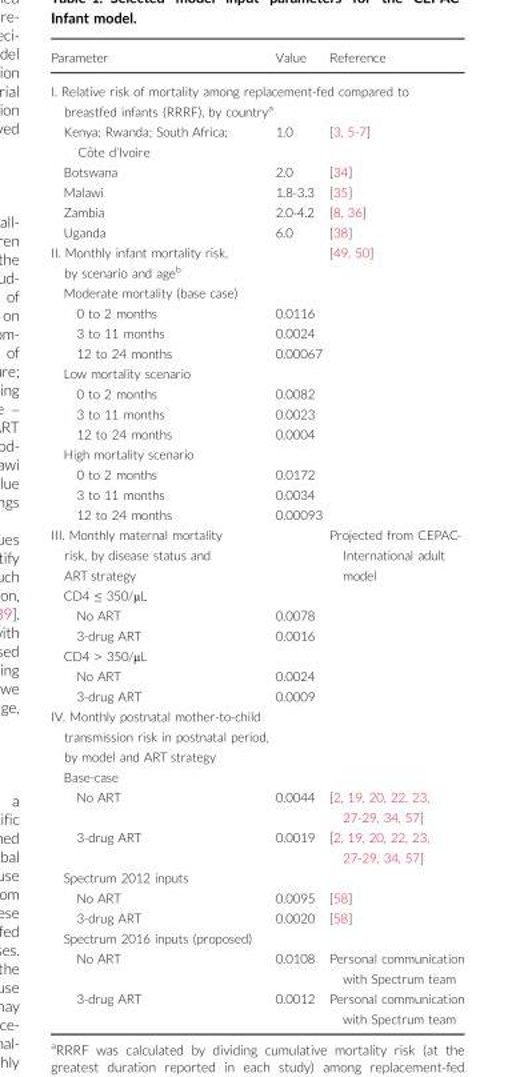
<table><thead><tr><td>Parameter</td><td>Value</td><td>Reference</td></tr></thead><tbody><tr><td colspan="3">I. Relative risk of mortality among replacement-fed compared to breastfed infants (RRRF), by country<sup>a</sup></td></tr><tr><td>Kenya; Rwanda; South Africa; C^ote d’Ivoire</td><td>1.0</td><td>[3, 5-7]</td></tr><tr><td>Botswana</td><td>2.0</td><td>[34]</td></tr><tr><td>Malawi</td><td>1.8-3.3</td><td>[35]</td></tr><tr><td>Zambia</td><td>2.0-4.2</td><td>[8, 36]</td></tr><tr><td>Uganda</td><td>6.0</td><td>[38]</td></tr><tr><td>II. Monthly infant mortality risk, by scenario and age<sup>b</sup></td><td></td><td>[49, 50]</td></tr><tr><td colspan="3">Moderate mortality (base case)</td></tr><tr><td>0 to 2 months</td><td>0.0116</td><td></td></tr><tr><td>3 to 11 months</td><td>0.0024</td><td></td></tr><tr><td>12 to 24 months</td><td>0.00067</td><td></td></tr><tr><td colspan="3">Low mortality scenario</td></tr><tr><td>0 to 2 months</td><td>0.0082</td><td></td></tr><tr><td>3 to 11 months</td><td>0.0023</td><td></td></tr><tr><td>12 to 24 months</td><td>0.0004</td><td></td></tr><tr><td colspan="3">High mortality scenario</td></tr><tr><td>0 to 2 months</td><td>0.0172</td><td></td></tr><tr><td>3 to 11 months</td><td>0.0034</td><td></td></tr><tr><td>12 to 24 months</td><td>0.00093</td><td></td></tr><tr><td>III. Monthly maternal mortality risk, by disease status and ART strategy</td><td></td><td>Projected from CEPAC- International adult model</td></tr><tr><td colspan="3">CD4 ≤ 350/μL</td></tr><tr><td>No ART</td><td>0.0078</td><td></td></tr><tr><td>3-drug ART</td><td>0.0016</td><td></td></tr><tr><td colspan="3">CD4 &gt; 350/μL</td></tr><tr><td>No ART</td><td>0.0024</td><td></td></tr><tr><td>3-drug ART</td><td>0.0009</td><td></td></tr><tr><td colspan="3">IV. Monthly postnatal mother-to-child transmission risk in postnatal period, by model and ART strategy</td></tr><tr><td colspan="3">Base-case</td></tr><tr><td>No ART</td><td>0.0044</td><td>[2, 19, 20, 22, 23, 27-29, 34, 57]</td></tr><tr><td>3-drug ART</td><td>0.0019</td><td>[2, 19, 20, 22, 23, 27-29, 34, 57]</td></tr><tr><td colspan="3">Spectrum 2012 inputs</td></tr><tr><td>No ART</td><td>0.0095</td><td>[58]</td></tr><tr><td>3-drug ART</td><td>0.0020</td><td>[58]</td></tr><tr><td colspan="3">Spectrum 2016 inputs (proposed)</td></tr><tr><td>No ART</td><td>0.0108</td><td>Personal communication with Spectrum team</td></tr><tr><td>3-drug ART</td><td>0.0012</td><td>Personal communication with Spectrum team</td></tr></tbody></table>